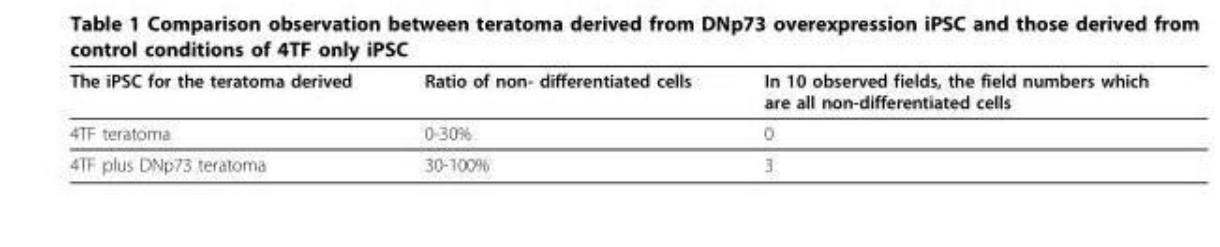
<table><thead><tr><td>The iPSC for the teratoma derived</td><td>Ratio of non- differentiated cells</td><td>In 10 observed fields, the field numbers which are all non-differentiated cells</td></tr></thead><tbody><tr><td>4TF teratoma</td><td>0-30%</td><td>0</td></tr><tr><td>4TF plus DNp73 teratoma</td><td>30-100%</td><td>3</td></tr></tbody></table>